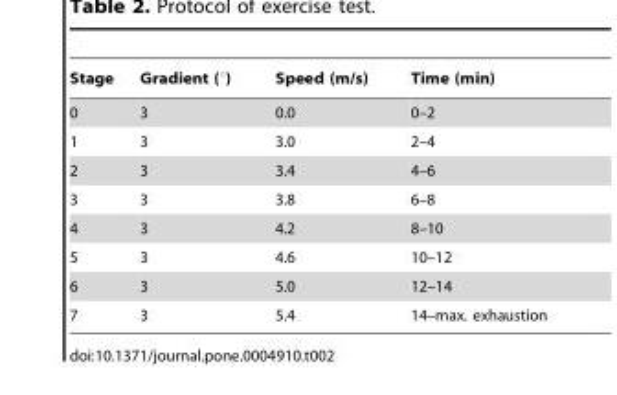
<table><thead><tr><td>Stage</td><td>Gradient (°)</td><td>Speed (m/s)</td><td>Time (min)</td></tr></thead><tbody><tr><td>0</td><td>3</td><td>0.0</td><td>0–2</td></tr><tr><td>1</td><td>3</td><td>3.0</td><td>2–4</td></tr><tr><td>2</td><td>3</td><td>3.4</td><td>4–6</td></tr><tr><td>3</td><td>3</td><td>3.8</td><td>6–8</td></tr><tr><td>4</td><td>3</td><td>4.2</td><td>8–10</td></tr><tr><td>5</td><td>3</td><td>4.6</td><td>10–12</td></tr><tr><td>6</td><td>3</td><td>5.0</td><td>12–14</td></tr><tr><td>7</td><td>3</td><td>5.4</td><td>14–max. exhaustion</td></tr></tbody></table>